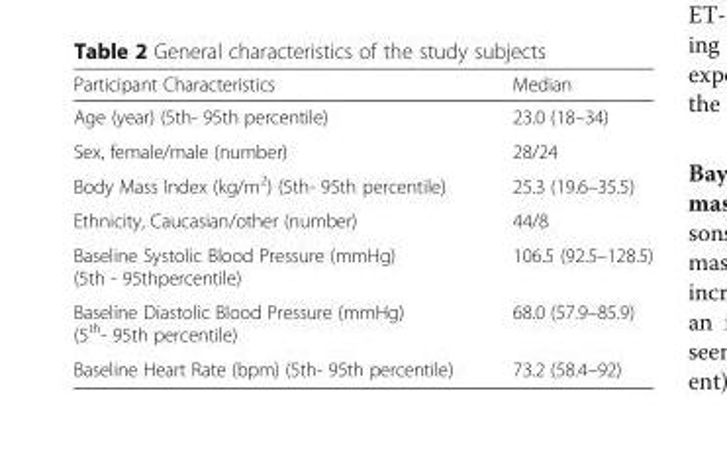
<table><thead><tr><td>Participant Characteristics</td><td>Median</td></tr></thead><tbody><tr><td>Age (year) (5th- 95th percentile)</td><td>23.0 (18–34)</td></tr><tr><td>Sex, female/male (number)</td><td>28/24</td></tr><tr><td>Body Mass Index (kg/m<sup>2</sup>) (5th- 95th percentile)</td><td>25.3 (19.6–35.5)</td></tr><tr><td>Ethnicity, Caucasian/other (number)</td><td>44/8</td></tr><tr><td>Baseline Systolic Blood Pressure (mmHg) (5th - 95thpercentile)</td><td>106.5 (92.5–128.5)</td></tr><tr><td>Baseline Diastolic Blood Pressure (mmHg) (5<sup>th</sup>- 95th percentile)</td><td>68.0 (57.9–85.9)</td></tr><tr><td>Baseline Heart Rate (bpm) (5th- 95th percentile)</td><td>73.2 (58.4–92)</td></tr></tbody></table>